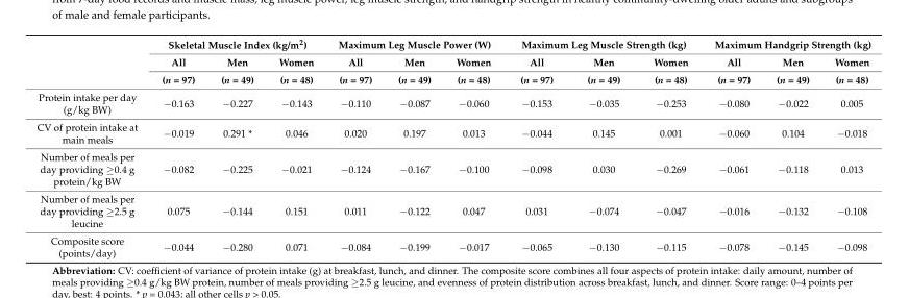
<table><thead><tr><td rowspan="3"></td><td colspan="3">Skeletal Muscle Index (kg/m<sup>2</sup>)</td><td colspan="3">Maximum Leg Muscle Power (W)</td><td colspan="3">Maximum Leg Muscle Strength (kg)</td><td colspan="3">Maximum Handgrip Strength (kg)</td></tr><tr><td rowspan="2">All (n = 97)</td><td rowspan="2">Men (n = 49)</td><td rowspan="2">Women (n = 48)</td><td rowspan="2">All (n = 97)</td><td rowspan="2">Men (n = 49)</td><td rowspan="2">Women (n = 48)</td><td rowspan="2">All (n = 97)</td><td rowspan="2">Men (n = 49)</td><td rowspan="2">Women (n = 48)</td><td rowspan="2">All (n = 97)</td><td rowspan="2">Men (n = 49)</td><td rowspan="2">Women (n = 48)</td></tr><tr></tr></thead><tbody><tr><td>Protein intake per day (g/kg BW)</td><td>−0.163</td><td>−0.227</td><td>−0.143</td><td>−0.110</td><td>−0.087</td><td>−0.060</td><td>−0.153</td><td>−0.035</td><td>−0.253</td><td>−0.080</td><td>−0.022</td><td>0.005</td></tr><tr><td>CV of protein intake at main meals</td><td>−0.019</td><td>0.291 *</td><td>0.046</td><td>0.020</td><td>0.197</td><td>0.013</td><td>−0.044</td><td>0.145</td><td>0.001</td><td>−0.060</td><td>0.104</td><td>−0.018</td></tr><tr><td>Number of meals per day providing ≥0.4 g protein/kg BW</td><td>−0.082</td><td>−0.225</td><td>−0.021</td><td>−0.124</td><td>−0.167</td><td>−0.100</td><td>−0.098</td><td>0.030</td><td>−0.269</td><td>−0.061</td><td>−0.118</td><td>0.013</td></tr><tr><td>Number of meals per day providing ≥2.5 g leucine</td><td>0.075</td><td>−0.144</td><td>0.151</td><td>0.011</td><td>−0.122</td><td>0.047</td><td>0.031</td><td>−0.074</td><td>−0.047</td><td>−0.016</td><td>−0.132</td><td>−0.108</td></tr><tr><td>Composite score (points/day)</td><td>−0.044</td><td>−0.280</td><td>0.071</td><td>−0.084</td><td>−0.199</td><td>−0.017</td><td>−0.065</td><td>−0.130</td><td>−0.115</td><td>−0.078</td><td>−0.145</td><td>−0.098</td></tr></tbody></table>